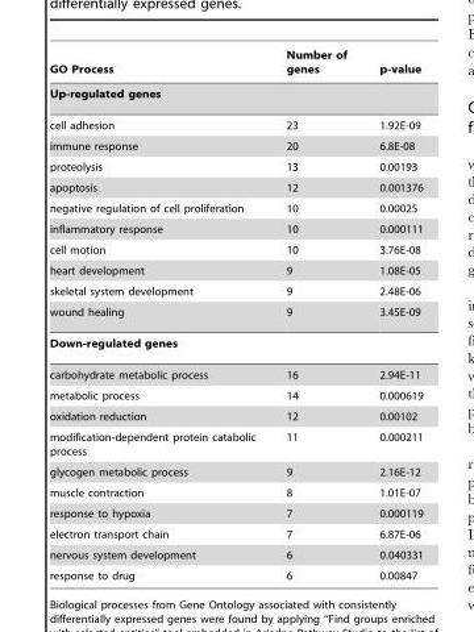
<table><thead><tr><td>GO Process</td><td>Number of genes</td><td>p-value</td></tr></thead><tbody><tr><td colspan="3">Up-regulated genes</td></tr><tr><td>cell adhesion</td><td>23</td><td>1.92E-09</td></tr><tr><td>immune response</td><td>20</td><td>6.8E-08</td></tr><tr><td>proteolysis</td><td>13</td><td>0.00193</td></tr><tr><td>apoptosis</td><td>12</td><td>0.001376</td></tr><tr><td>negative regulation of cell proliferation</td><td>10</td><td>0.00025</td></tr><tr><td>inflammatory response</td><td>10</td><td>0.000111</td></tr><tr><td>cell motion</td><td>10</td><td>3.76E-08</td></tr><tr><td>heart development</td><td>9</td><td>1.08E-05</td></tr><tr><td>skeletal system development</td><td>9</td><td>2.48E-06</td></tr><tr><td>wound healing</td><td>9</td><td>3.45E-09</td></tr><tr><td colspan="3">Down-regulated genes</td></tr><tr><td>carbohydrate metabolic process</td><td>16</td><td>2.94E-11</td></tr><tr><td>metabolic process</td><td>14</td><td>0.000619</td></tr><tr><td>oxidation reduction</td><td>12</td><td>0.00102</td></tr><tr><td>modification-dependent protein catabolic process</td><td>11</td><td>0.000211</td></tr><tr><td>glycogen metabolic process</td><td>9</td><td>2.16E-12</td></tr><tr><td>muscle contraction</td><td>8</td><td>1.01E-07</td></tr><tr><td>response to hypoxia</td><td>7</td><td>0.000119</td></tr><tr><td>electron transport chain</td><td>7</td><td>6.87E-06</td></tr><tr><td>nervous system development</td><td>6</td><td>0.040331</td></tr><tr><td>response to drug</td><td>6</td><td>0.00847</td></tr></tbody></table>